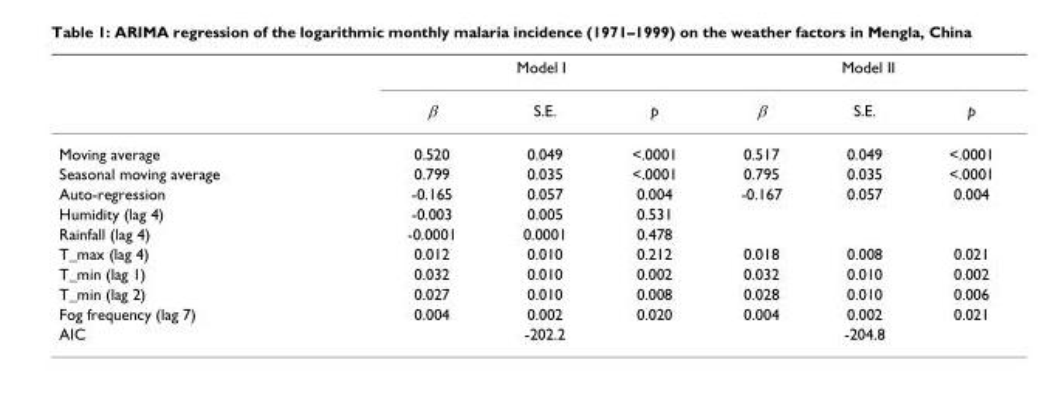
<table><thead><tr><td rowspan="2"></td><td colspan="3">Model I</td><td colspan="3">Model II</td></tr><tr><td>β</td><td>S.E.</td><td>p</td><td>β</td><td>S.E.</td><td>p</td></tr></thead><tbody><tr><td>Moving average</td><td>0.520</td><td>0.049</td><td>&lt;.0001</td><td>0.517</td><td>0.049</td><td>&lt;.0001</td></tr><tr><td>Seasonal moving average</td><td>0.799</td><td>0.035</td><td>&lt;.0001</td><td>0.795</td><td>0.035</td><td>&lt;.0001</td></tr><tr><td>Auto-regression</td><td>-0.165</td><td>0.057</td><td>0.004</td><td>-0.167</td><td>0.057</td><td>0.004</td></tr><tr><td>Humidity (lag 4)</td><td>-0.003</td><td>0.005</td><td>0.531</td><td></td><td></td><td></td></tr><tr><td>Rainfall (lag 4)</td><td>-0.0001</td><td>0.0001</td><td>0.478</td><td></td><td></td><td></td></tr><tr><td>T_max (lag 4)</td><td>0.012</td><td>0.010</td><td>0.212</td><td>0.018</td><td>0.008</td><td>0.021</td></tr><tr><td>T_min (lag 1)</td><td>0.032</td><td>0.010</td><td>0.002</td><td>0.032</td><td>0.010</td><td>0.002</td></tr><tr><td>T_min (lag 2)</td><td>0.027</td><td>0.010</td><td>0.008</td><td>0.028</td><td>0.010</td><td>0.006</td></tr><tr><td>Fog frequency (lag 7)</td><td>0.004</td><td>0.002</td><td>0.020</td><td>0.004</td><td>0.002</td><td>0.021</td></tr><tr><td>AIC</td><td></td><td>-202.2</td><td></td><td></td><td>-204.8</td><td></td></tr></tbody></table>